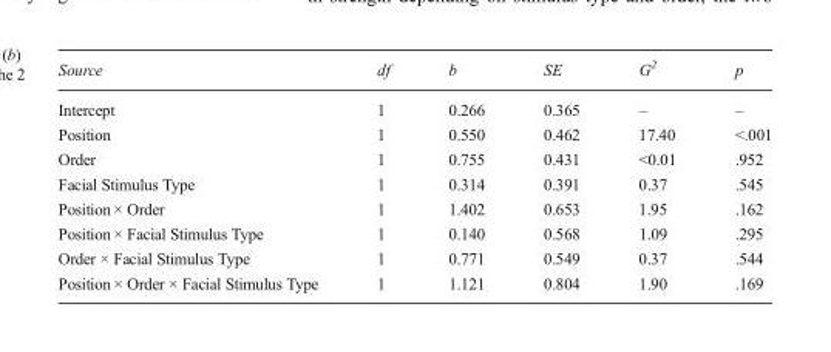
<table><thead><tr><td>Source</td><td>df</td><td>b</td><td>SE</td><td>G<sup>2</sup></td><td>p</td></tr></thead><tbody><tr><td>Intercept</td><td>1</td><td>0.266</td><td>0.365</td><td>–</td><td>–</td></tr><tr><td>Position</td><td>1</td><td>0.550</td><td>0.462</td><td>17.40</td><td>&lt;.001</td></tr><tr><td>Order</td><td>1</td><td>0.755</td><td>0.431</td><td>&lt;0.01</td><td>.952</td></tr><tr><td>Facial Stimulus Type</td><td>1</td><td>0.314</td><td>0.391</td><td>0.37</td><td>.545</td></tr><tr><td>Position × Order</td><td>1</td><td>1.402</td><td>0.653</td><td>1.95</td><td>.162</td></tr><tr><td>Position × Facial Stimulus Type</td><td>1</td><td>0.140</td><td>0.568</td><td>1.09</td><td>.295</td></tr><tr><td>Order × Facial Stimulus Type</td><td>1</td><td>0.771</td><td>0.549</td><td>0.37</td><td>.544</td></tr><tr><td>Position × Order × Facial Stimulus Type</td><td>1</td><td>1.121</td><td>0.804</td><td>1.90</td><td>.169</td></tr></tbody></table>